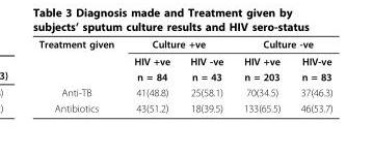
<table><tbody><tr><td rowspan="3">Treatment given</td><td colspan="2">Culture +ve</td><td colspan="2">Culture -ve</td></tr><tr><td>HIV +ve</td><td>HIV -ve</td><td>HIV +ve</td><td>HIV-ve</td></tr><tr><td>n = 84</td><td>n = 43</td><td>n = 203</td><td>n = 83</td></tr><tr><td>Anti-TB</td><td>41(48.8)</td><td>25(58.1)</td><td>70(34.5)</td><td>37(46.3)</td></tr><tr><td>Antibiotics</td><td>43(51.2)</td><td>18(39.5)</td><td>133(65.5)</td><td>46(53.7)</td></tr></tbody></table>